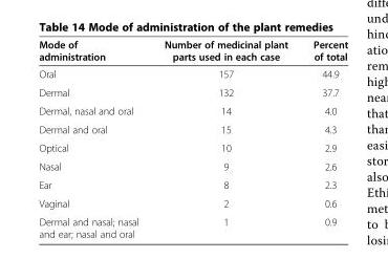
<table><thead><tr><td>Mode of administration</td><td>Number of medicinal plant parts used in each case</td><td>Percent of total</td></tr></thead><tbody><tr><td>Oral</td><td>157</td><td>44.9</td></tr><tr><td>Dermal</td><td>132</td><td>37.7</td></tr><tr><td>Dermal, nasal and oral</td><td>14</td><td>4.0</td></tr><tr><td>Dermal and oral</td><td>15</td><td>4.3</td></tr><tr><td>Optical</td><td>10</td><td>2.9</td></tr><tr><td>Nasal</td><td>9</td><td>2.6</td></tr><tr><td>Ear</td><td>8</td><td>2.3</td></tr><tr><td>Vaginal</td><td>2</td><td>0.6</td></tr><tr><td>Dermal and nasal; nasal and ear; nasal and oral</td><td>1</td><td>0.9</td></tr></tbody></table>